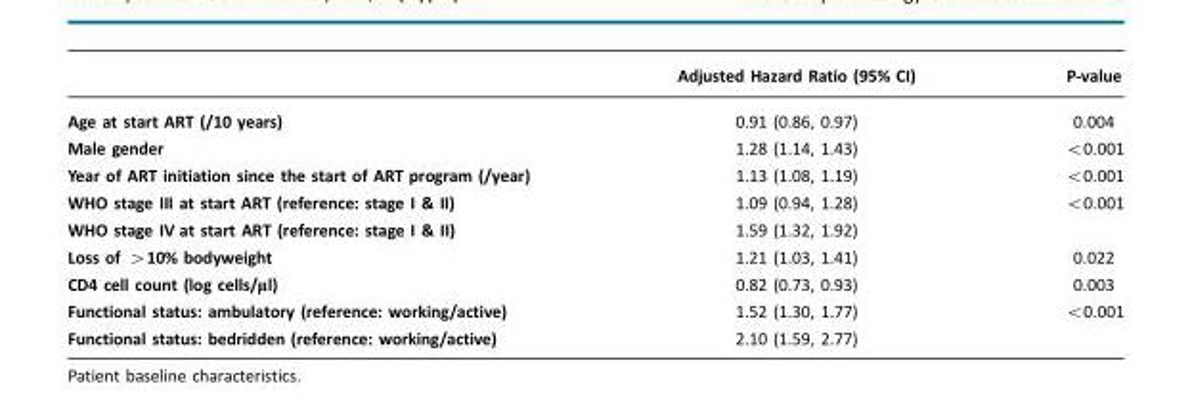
<table><thead><tr><td></td><td>Adjusted Hazard Ratio (95% CI)</td><td>P-value</td></tr></thead><tbody><tr><td>Age at start ART (/10 years)</td><td>0.91 (0.86, 0.97)</td><td>0.004</td></tr><tr><td>Male gender</td><td>1.28 (1.14, 1.43)</td><td>&lt;0.001</td></tr><tr><td>Year of ART initiation since the start of ART program (/year)</td><td>1.13 (1.08, 1.19)</td><td>&lt;0.001</td></tr><tr><td>WHO stage III at start ART (reference: stage I &amp; II)</td><td>1.09 (0.94, 1.28)</td><td>&lt;0.001</td></tr><tr><td>WHO stage IV at start ART (reference: stage I &amp; II)</td><td>1.59 (1.32, 1.92)</td><td></td></tr><tr><td>Loss of &gt;10% bodyweight</td><td>1.21 (1.03, 1.41)</td><td>0.022</td></tr><tr><td>CD4 cell count (log cells/µl)</td><td>0.82 (0.73, 0.93)</td><td>0.003</td></tr><tr><td>Functional status: ambulatory (reference: working/active)</td><td>1.52 (1.30, 1.77)</td><td>&lt;0.001</td></tr><tr><td>Functional status: bedridden (reference: working/active)</td><td>2.10 (1.59, 2.77)</td><td></td></tr></tbody></table>